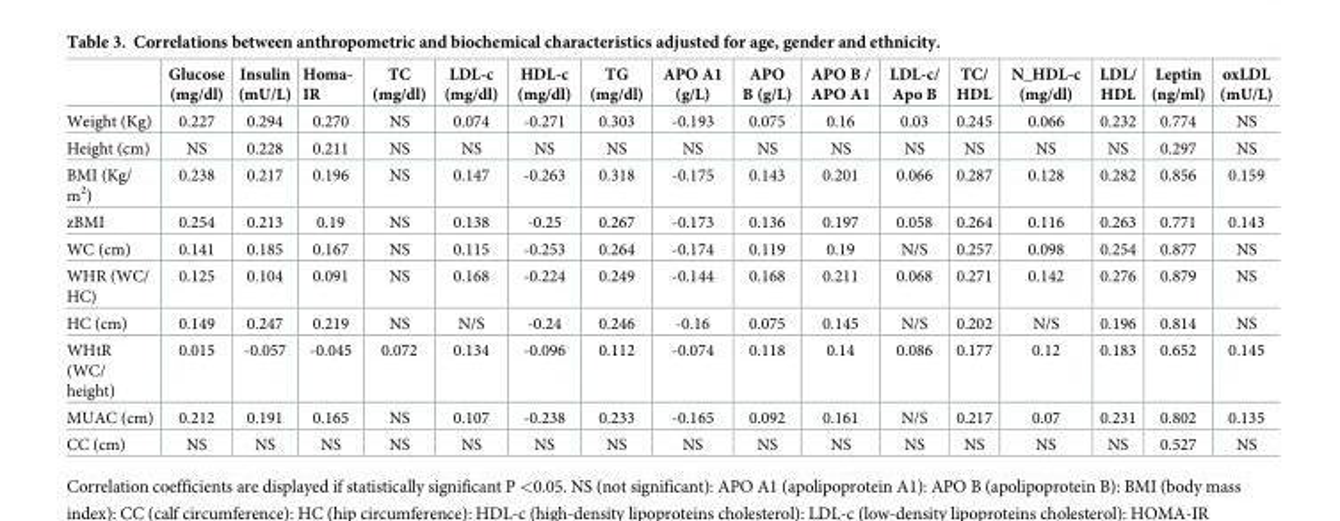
<table><thead><tr><td></td><td>Glucose (mg/dl)</td><td>Insulin (mU/L)</td><td>Homa- IR</td><td>TC (mg/dl)</td><td>LDL-c (mg/dl)</td><td>HDL-c (mg/dl)</td><td>TG (mg/dl)</td><td>APO A1 (g/L)</td><td>APO B (g/L)</td><td>APO B / APO A1</td><td>LDL-c/ Apo B</td><td>TC/ HDL</td><td>N_HDL-c (mg/dl)</td><td>LDL/ HDL</td><td>Leptin (ng/ml)</td><td>oxLDL (mU/L)</td></tr></thead><tbody><tr><td>Weight (Kg)</td><td>0.227</td><td>0.294</td><td>0.270</td><td>NS</td><td>0.074</td><td>-0.271</td><td>0.303</td><td>-0.193</td><td>0.075</td><td>0.16</td><td>0.03</td><td>0.245</td><td>0.066</td><td>0.232</td><td>0.774</td><td>NS</td></tr><tr><td>Height (cm)</td><td>NS</td><td>0.228</td><td>0.211</td><td>NS</td><td>NS</td><td>NS</td><td>NS</td><td>NS</td><td>NS</td><td>NS</td><td>NS</td><td>NS</td><td>NS</td><td>NS</td><td>0.297</td><td>NS</td></tr><tr><td>BMI (Kg/ m<sup>2</sup>)</td><td>0.238</td><td>0.217</td><td>0.196</td><td>NS</td><td>0.147</td><td>-0.263</td><td>0.318</td><td>-0.175</td><td>0.143</td><td>0.201</td><td>0.066</td><td>0.287</td><td>0.128</td><td>0.282</td><td>0.856</td><td>0.159</td></tr><tr><td>zBMI</td><td>0.254</td><td>0.213</td><td>0.19</td><td>NS</td><td>0.138</td><td>-0.25</td><td>0.267</td><td>-0.173</td><td>0.136</td><td>0.197</td><td>0.058</td><td>0.264</td><td>0.116</td><td>0.263</td><td>0.771</td><td>0.143</td></tr><tr><td>WC (cm)</td><td>0.141</td><td>0.185</td><td>0.167</td><td>NS</td><td>0.115</td><td>-0.253</td><td>0.264</td><td>-0.174</td><td>0.119</td><td>0.19</td><td>N/S</td><td>0.257</td><td>0.098</td><td>0.254</td><td>0.877</td><td>NS</td></tr><tr><td>WHR (WC/ HC)</td><td>0.125</td><td>0.104</td><td>0.091</td><td>NS</td><td>0.168</td><td>-0.224</td><td>0.249</td><td>-0.144</td><td>0.168</td><td>0.211</td><td>0.068</td><td>0.271</td><td>0.142</td><td>0.276</td><td>0.879</td><td>NS</td></tr><tr><td>HC (cm)</td><td>0.149</td><td>0.247</td><td>0.219</td><td>NS</td><td>N/S</td><td>-0.24</td><td>0.246</td><td>-0.16</td><td>0.075</td><td>0.145</td><td>N/S</td><td>0.202</td><td>N/S</td><td>0.196</td><td>0.814</td><td>NS</td></tr><tr><td>WHtR (WC/ height)</td><td>0.015</td><td>-0.057</td><td>-0.045</td><td>0.072</td><td>0.134</td><td>-0.096</td><td>0.112</td><td>-0.074</td><td>0.118</td><td>0.14</td><td>0.086</td><td>0.177</td><td>0.12</td><td>0.183</td><td>0.652</td><td>0.145</td></tr><tr><td>MUAC (cm)</td><td>0.212</td><td>0.191</td><td>0.165</td><td>NS</td><td>0.107</td><td>-0.238</td><td>0.233</td><td>-0.165</td><td>0.092</td><td>0.161</td><td>N/S</td><td>0.217</td><td>0.07</td><td>0.231</td><td>0.802</td><td>0.135</td></tr><tr><td>CC (cm)</td><td>NS</td><td>NS</td><td>NS</td><td>NS</td><td>NS</td><td>NS</td><td>NS</td><td>NS</td><td>NS</td><td>NS</td><td>NS</td><td>NS</td><td>NS</td><td>NS</td><td>0.527</td><td>NS</td></tr></tbody></table>